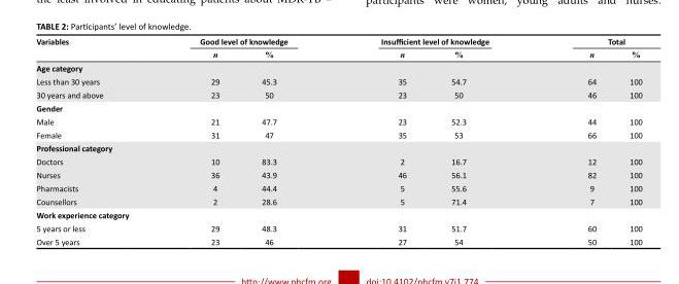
<table><thead><tr><td rowspan="2">Variables</td><td colspan="2">Good level of knowledge</td><td colspan="2">Insufficient level of knowledge</td><td colspan="2">Total</td></tr><tr><td>n</td><td>%</td><td>n</td><td>%</td><td>n</td><td>%</td></tr></thead><tbody><tr><td colspan="7">Age category</td></tr><tr><td>Less than 30 years</td><td>29</td><td>45.3</td><td>35</td><td>54.7</td><td>64</td><td>100</td></tr><tr><td>30 years and above</td><td>23</td><td>50</td><td>23</td><td>50</td><td>46</td><td>100</td></tr><tr><td colspan="7">Gender</td></tr><tr><td>Male</td><td>21</td><td>47.7</td><td>23</td><td>52.3</td><td>44</td><td>100</td></tr><tr><td>Female</td><td>31</td><td>47</td><td>35</td><td>53</td><td>66</td><td>100</td></tr><tr><td colspan="7">Professional category</td></tr><tr><td>Doctors</td><td>10</td><td>83.3</td><td>2</td><td>16.7</td><td>12</td><td>100</td></tr><tr><td>Nurses</td><td>36</td><td>43.9</td><td>46</td><td>56.1</td><td>82</td><td>100</td></tr><tr><td>Pharmacists</td><td>4</td><td>44.4</td><td>5</td><td>55.6</td><td>9</td><td>100</td></tr><tr><td>Counsellors</td><td>2</td><td>28.6</td><td>5</td><td>71.4</td><td>7</td><td>100</td></tr><tr><td colspan="7">Work experience category</td></tr><tr><td>5 years or less</td><td>29</td><td>48.3</td><td>31</td><td>51.7</td><td>60</td><td>100</td></tr><tr><td>Over 5 years</td><td>23</td><td>46</td><td>27</td><td>54</td><td>50</td><td>100</td></tr></tbody></table>